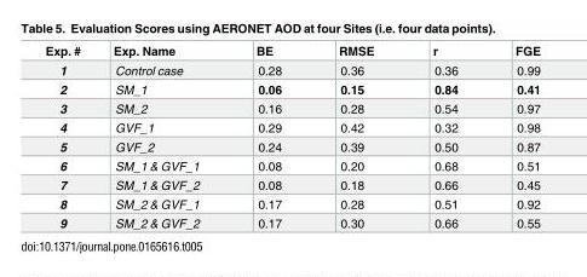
<table><thead><tr><td>Exp. #</td><td>Exp. Name</td><td>BE</td><td>RMSE</td><td>r</td><td>FGE</td></tr></thead><tbody><tr><td>1</td><td>Control case</td><td>0.28</td><td>0.36</td><td>0.36</td><td>0.99</td></tr><tr><td>2</td><td>SM_1</td><td>0.06</td><td>0.15</td><td>0.84</td><td>0.41</td></tr><tr><td>3</td><td>SM_2</td><td>0.16</td><td>0.28</td><td>0.54</td><td>0.97</td></tr><tr><td>4</td><td>GVF_1</td><td>0.29</td><td>0.42</td><td>0.32</td><td>0.98</td></tr><tr><td>5</td><td>GVF_2</td><td>0.24</td><td>0.39</td><td>0.50</td><td>0.87</td></tr><tr><td>6</td><td>SM_1 &amp; GVF_1</td><td>0.08</td><td>0.20</td><td>0.68</td><td>0.51</td></tr><tr><td>7</td><td>SM_1 &amp; GVF_2</td><td>0.08</td><td>0.18</td><td>0.66</td><td>0.45</td></tr><tr><td>8</td><td>SM_2 &amp; GVF_1</td><td>0.17</td><td>0.28</td><td>0.51</td><td>0.92</td></tr><tr><td>9</td><td>SM_2 &amp; GVF_2</td><td>0.17</td><td>0.30</td><td>0.66</td><td>0.55</td></tr></tbody></table>